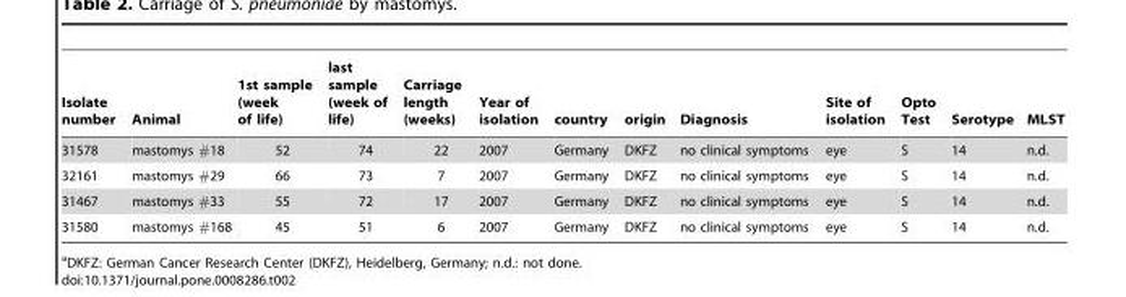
<table><thead><tr><td>Isolate number</td><td>Animal</td><td>1st sample (week of life)</td><td>last sample (week of life)</td><td>Carriage length (weeks)</td><td>Year of isolation</td><td>country</td><td>origin</td><td>Diagnosis</td><td>Site of isolation</td><td>Opto Test</td><td>Serotype</td><td>MLST</td></tr></thead><tbody><tr><td>31578</td><td>mastomys #18</td><td>52</td><td>74</td><td>22</td><td>2007</td><td>Germany</td><td>DKFZ</td><td>no clinical symptoms</td><td>eye</td><td>S</td><td>14</td><td>n.d.</td></tr><tr><td>32161</td><td>mastomys #29</td><td>66</td><td>73</td><td>7</td><td>2007</td><td>Germany</td><td>DKFZ</td><td>no clinical symptoms</td><td>eye</td><td>S</td><td>14</td><td>n.d.</td></tr><tr><td>31467</td><td>mastomys #33</td><td>55</td><td>72</td><td>17</td><td>2007</td><td>Germany</td><td>DKFZ</td><td>no clinical symptoms</td><td>eye</td><td>S</td><td>14</td><td>n.d.</td></tr><tr><td>31580</td><td>mastomys #168</td><td>45</td><td>51</td><td>6</td><td>2007</td><td>Germany</td><td>DKFZ</td><td>no clinical symptoms</td><td>eye</td><td>S</td><td>14</td><td>n.d.</td></tr></tbody></table>